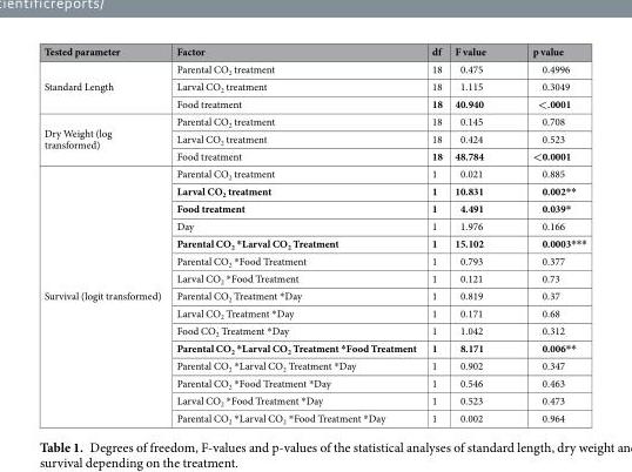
<table><thead><tr><td>Tested parameter</td><td>Factor</td><td>df</td><td>F value</td><td>p value</td></tr></thead><tbody><tr><td rowspan="3">Standard Length</td><td>Parental CO<sub>2</sub> treatment</td><td>18</td><td>0.475</td><td>0.4996</td></tr><tr><td>Larval CO<sub>2</sub> treatment</td><td>18</td><td>1.115</td><td>0.3049</td></tr><tr><td>Food treatment</td><td>18</td><td>40.940</td><td>&lt;.0001</td></tr><tr><td rowspan="3">Dry Weight (log transformed)</td><td>Parental CO<sub>2</sub> treatment</td><td>18</td><td>0.145</td><td>0.708</td></tr><tr><td>Larval CO<sub>2</sub> treatment</td><td>18</td><td>0.424</td><td>0.523</td></tr><tr><td>Food treatment</td><td>18</td><td>48.784</td><td>&lt;0.0001</td></tr><tr><td rowspan="15">Survival (logit transformed)</td><td>Parental CO<sub>2</sub> treatment</td><td>1</td><td>0.021</td><td>0.885</td></tr><tr><td>Larval CO<sub>2</sub> treatment</td><td>1</td><td>10.831</td><td>0.002**</td></tr><tr><td>Food treatment</td><td>1</td><td>4.491</td><td>0.039*</td></tr><tr><td>Day</td><td>1</td><td>1.976</td><td>0.166</td></tr><tr><td>Parental CO<sub>2</sub> *Larval CO<sub>2</sub> Treatment</td><td>1</td><td>15.102</td><td>0.0003***</td></tr><tr><td>Parental CO<sub>2</sub> *Food Treatment</td><td>1</td><td>0.793</td><td>0.377</td></tr><tr><td>Larval CO<sub>2</sub> *Food Treatment</td><td>1</td><td>0.121</td><td>0.73</td></tr><tr><td>Parental CO<sub>2</sub> Treatment *Day</td><td>1</td><td>0.819</td><td>0.37</td></tr><tr><td>Larval CO<sub>2</sub> Treatment *Day</td><td>1</td><td>0.171</td><td>0.68</td></tr><tr><td>Food CO<sub>2</sub> Treatment *Day</td><td>1</td><td>1.042</td><td>0.312</td></tr><tr><td>Parental CO<sub>2</sub> *Larval CO<sub>2</sub> Treatment *Food Treatment</td><td>1</td><td>8.171</td><td>0.006**</td></tr><tr><td>Parental CO<sub>2</sub> *Larval CO<sub>2</sub> Treatment *Day</td><td>1</td><td>0.902</td><td>0.347</td></tr><tr><td>Parental CO<sub>2</sub> *Food Treatment *Day</td><td>1</td><td>0.546</td><td>0.463</td></tr><tr><td>Larval CO<sub>2</sub> *Food Treatment *Day</td><td>1</td><td>0.523</td><td>0.473</td></tr><tr><td>Parental CO<sub>2</sub> *Larval CO<sub>2</sub> *Food Treatment *Day</td><td>1</td><td>0.002</td><td>0.964</td></tr></tbody></table>